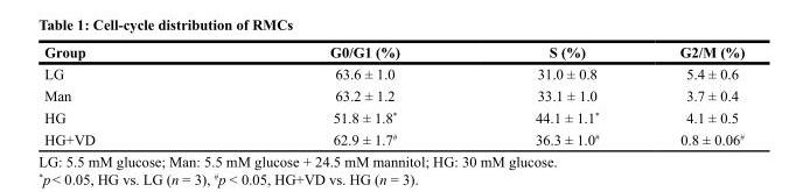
<table><thead><tr><td>Group</td><td>G0/G1 (%)</td><td>S (%)</td><td>G2/M (%)</td></tr></thead><tbody><tr><td>LG</td><td>63.6 ± 1.0</td><td>31.0 ± 0.8</td><td>5.4 ± 0.6</td></tr><tr><td>Man</td><td>63.2 ± 1.2</td><td>33.1 ± 1.0</td><td>3.7 ± 0.4</td></tr><tr><td>HG</td><td>51.8 ± 1.8*</td><td>44.1 ± 1.1*</td><td>4.1 ± 0.5</td></tr><tr><td>HG+VD</td><td>62.9 ± 1.7<sup>#</sup></td><td>36.3 ± 1.0<sup>#</sup></td><td>0.8 ± 0.06<sup>#</sup></td></tr></tbody></table>